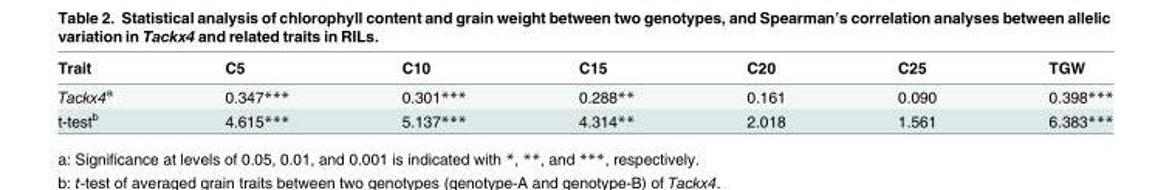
<table><thead><tr><td>Trait</td><td>C5</td><td>C10</td><td>C15</td><td>C20</td><td>C25</td><td>TGW</td></tr></thead><tbody><tr><td>Tackx4<sup>a</sup></td><td>0.347***</td><td>0.301***</td><td>0.288**</td><td>0.161</td><td>0.090</td><td>0.398***</td></tr><tr><td>t-test<sup>b</sup></td><td>4.615***</td><td>5.137***</td><td>4.314**</td><td>2.018</td><td>1.561</td><td>6.383***</td></tr></tbody></table>